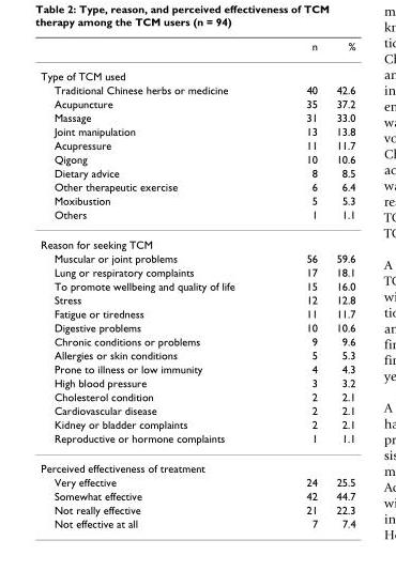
<table><thead><tr><td></td><td>n</td><td>%</td></tr></thead><tbody><tr><td colspan="3">Type of TCM used</td></tr><tr><td>Traditional Chinese herbs or medicine</td><td>40</td><td>42.6</td></tr><tr><td>Acupuncture</td><td>35</td><td>37.2</td></tr><tr><td>Massage</td><td>31</td><td>33.0</td></tr><tr><td>Joint manipulation</td><td>13</td><td>13.8</td></tr><tr><td>Acupressure</td><td>11</td><td>11.7</td></tr><tr><td>Qigong</td><td>10</td><td>10.6</td></tr><tr><td>Dietary advice</td><td>8</td><td>8.5</td></tr><tr><td>Other therapeutic exercise</td><td>6</td><td>6.4</td></tr><tr><td>Moxibustion</td><td>5</td><td>5.3</td></tr><tr><td>Others</td><td>1</td><td>1.1</td></tr><tr><td colspan="3">Reason for seeking TCM</td></tr><tr><td>Muscular or joint problems</td><td>56</td><td>59.6</td></tr><tr><td>Lung or respiratory complaints</td><td>17</td><td>18.1</td></tr><tr><td>To promote wellbeing and quality of life</td><td>15</td><td>16.0</td></tr><tr><td>Stress</td><td>12</td><td>12.8</td></tr><tr><td>Fatigue or tiredness</td><td>11</td><td>11.7</td></tr><tr><td>Digestive problems</td><td>10</td><td>10.6</td></tr><tr><td>Chronic conditions or problems</td><td>9</td><td>9.6</td></tr><tr><td>Allergies or skin conditions</td><td>5</td><td>5.3</td></tr><tr><td>Prone to illness or low immunity</td><td>4</td><td>4.3</td></tr><tr><td>High blood pressure</td><td>3</td><td>3.2</td></tr><tr><td>Cholesterol condition</td><td>2</td><td>2.1</td></tr><tr><td>Cardiovascular disease</td><td>2</td><td>2.1</td></tr><tr><td>Kidney or bladder complaints</td><td>2</td><td>2.1</td></tr><tr><td>Reproductive or hormone complaints</td><td>1</td><td>1.1</td></tr><tr><td colspan="3">Perceived effectiveness of treatment</td></tr><tr><td>Very effective</td><td>24</td><td>25.5</td></tr><tr><td>Somewhat effective</td><td>42</td><td>44.7</td></tr><tr><td>Not really effective</td><td>21</td><td>22.3</td></tr><tr><td>Not effective at all</td><td>7</td><td>7.4</td></tr></tbody></table>